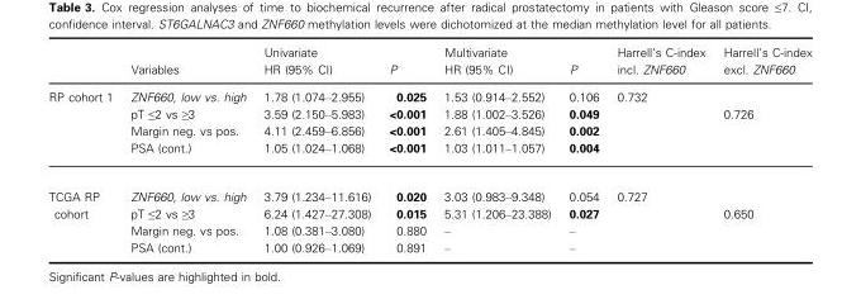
<table><thead><tr><td></td><td>Variables</td><td>Univariate HR (95% CI)</td><td>P</td><td>Multivariate HR (95% CI)</td><td>P</td><td>Harrell’s C-index incl. ZNF660</td><td>Harrell’s C-index excl. ZNF660</td></tr></thead><tbody><tr><td rowspan="4">RP cohort 1</td><td>ZNF660, low vs. high</td><td>1.78 (1.074–2.955)</td><td>0.025</td><td>1.53 (0.914–2.552)</td><td>0.106</td><td>0.732</td><td></td></tr><tr><td>pT ≤2 vs ≥3</td><td>3.59 (2.150–5.983)</td><td>&lt;0.001</td><td>1.88 (1.002–3.526)</td><td>0.049</td><td></td><td>0.726</td></tr><tr><td>Margin neg. vs pos.</td><td>4.11 (2.459–6.856)</td><td>&lt;0.001</td><td>2.61 (1.405–4.845)</td><td>0.002</td><td></td><td></td></tr><tr><td>PSA (cont.)</td><td>1.05 (1.024–1.068)</td><td>&lt;0.001</td><td>1.03 (1.011–1.057)</td><td>0.004</td><td></td><td></td></tr><tr><td rowspan="4">TCGA RP cohort</td><td>ZNF660, low vs. high</td><td>3.79 (1.234–11.616)</td><td>0.020</td><td>3.03 (0.983–9.348)</td><td>0.054</td><td>0.727</td><td></td></tr><tr><td>pT ≤2 vs ≥3</td><td>6.24 (1.427–27.308)</td><td>0.015</td><td>5.31 (1.206–23.388)</td><td>0.027</td><td></td><td>0.650</td></tr><tr><td>Margin neg. vs pos.</td><td>1.08 (0.381–3.080)</td><td>0.880</td><td>–</td><td>–</td><td></td><td></td></tr><tr><td>PSA (cont.)</td><td>1.00 (0.926–1.069)</td><td>0.891</td><td>–</td><td>–</td><td></td><td></td></tr></tbody></table>